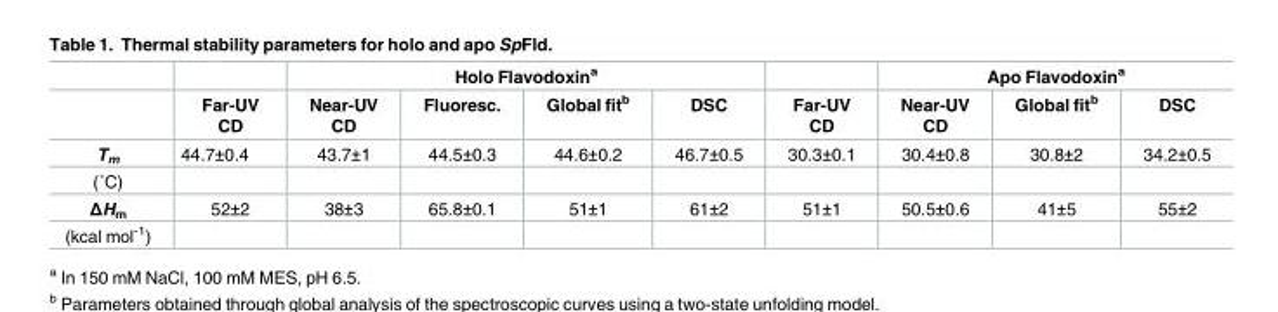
<table><thead><tr><td rowspan="2"></td><td rowspan="2">Far-UV CD</td><td colspan="4">Holo Flavodoxin<sup>a</sup></td><td rowspan="2">Far-UV CD</td><td colspan="3">Apo Flavodoxin<sup>a</sup></td></tr><tr><td>Near-UV CD</td><td>Fluoresc.</td><td>Global fit<sup>b</sup></td><td>DSC</td><td>Near-UV CD</td><td>Global fit<sup>b</sup></td><td>DSC</td></tr></thead><tbody><tr><td>T<sub>m</sub></td><td>44.7±0.4</td><td>43.7±1</td><td>44.5±0.3</td><td>44.6±0.2</td><td>46.7±0.5</td><td>30.3±0.1</td><td>30.4±0.8</td><td>30.8±2</td><td>34.2±0.5</td></tr><tr><td colspan="10">(˚C)</td></tr><tr><td>ΔH<sub>m</sub></td><td>52±2</td><td>38±3</td><td>65.8±0.1</td><td>51±1</td><td>61±2</td><td>51±1</td><td>50.5±0.6</td><td>41±5</td><td>55±2</td></tr><tr><td>(kcal mol<sup>-1</sup>)</td><td></td><td></td><td></td><td></td><td></td><td></td><td></td><td></td><td></td></tr></tbody></table>